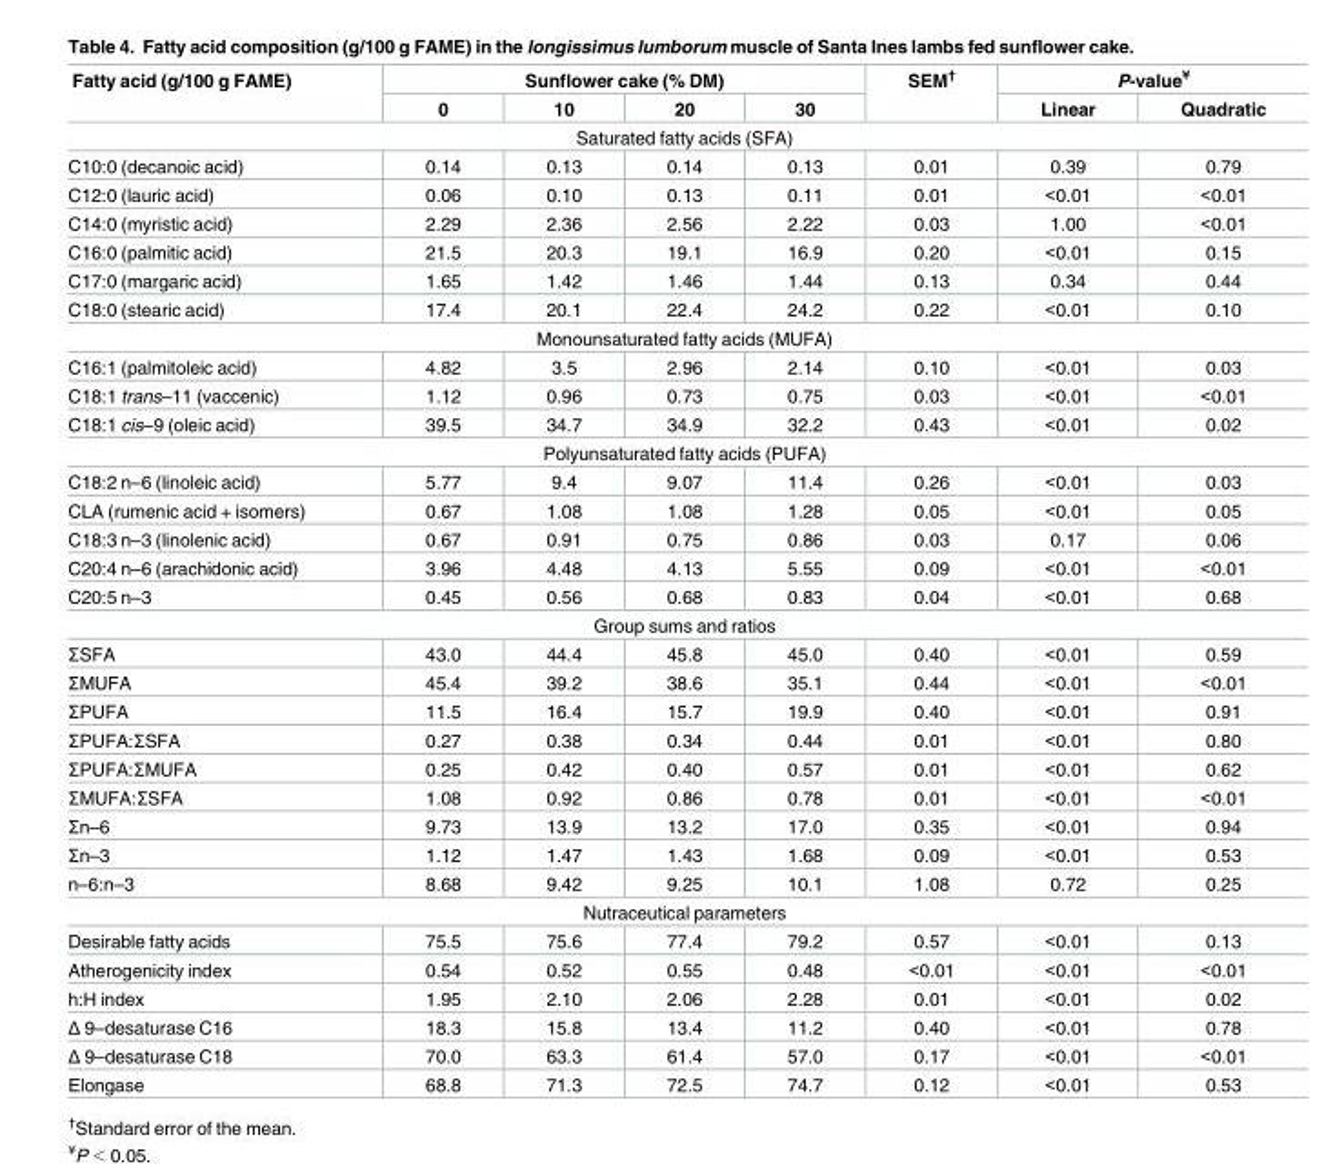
<table><thead><tr><td rowspan="2">Fatty acid (g/100 g FAME)</td><td colspan="4">Sunflower cake (% DM)</td><td rowspan="2">SEM<sup>†</sup></td><td colspan="2">P-value<sup>¥</sup></td></tr><tr><td>0</td><td>10</td><td>20</td><td>30</td><td>Linear</td><td>Quadratic</td></tr></thead><tbody><tr><td colspan="8">Saturated fatty acids (SFA)</td></tr><tr><td>C10:0 (decanoic acid)</td><td>0.14</td><td>0.13</td><td>0.14</td><td>0.13</td><td>0.01</td><td>0.39</td><td>0.79</td></tr><tr><td>C12:0 (lauric acid)</td><td>0.06</td><td>0.10</td><td>0.13</td><td>0.11</td><td>0.01</td><td>&lt;0.01</td><td>&lt;0.01</td></tr><tr><td>C14:0 (myristic acid)</td><td>2.29</td><td>2.36</td><td>2.56</td><td>2.22</td><td>0.03</td><td>1.00</td><td>&lt;0.01</td></tr><tr><td>C16:0 (palmitic acid)</td><td>21.5</td><td>20.3</td><td>19.1</td><td>16.9</td><td>0.20</td><td>&lt;0.01</td><td>0.15</td></tr><tr><td>C17:0 (margaric acid)</td><td>1.65</td><td>1.42</td><td>1.46</td><td>1.44</td><td>0.13</td><td>0.34</td><td>0.44</td></tr><tr><td>C18:0 (stearic acid)</td><td>17.4</td><td>20.1</td><td>22.4</td><td>24.2</td><td>0.22</td><td>&lt;0.01</td><td>0.10</td></tr><tr><td colspan="8">Monounsaturated fatty acids (MUFA)</td></tr><tr><td>C16:1 (palmitoleic acid)</td><td>4.82</td><td>3.5</td><td>2.96</td><td>2.14</td><td>0.10</td><td>&lt;0.01</td><td>0.03</td></tr><tr><td>C18:1 trans–11 (vaccenic)</td><td>1.12</td><td>0.96</td><td>0.73</td><td>0.75</td><td>0.03</td><td>&lt;0.01</td><td>&lt;0.01</td></tr><tr><td>C18:1 cis–9 (oleic acid)</td><td>39.5</td><td>34.7</td><td>34.9</td><td>32.2</td><td>0.43</td><td>&lt;0.01</td><td>0.02</td></tr><tr><td colspan="8">Polyunsaturated fatty acids (PUFA)</td></tr><tr><td>C18:2 n–6 (linoleic acid)</td><td>5.77</td><td>9.4</td><td>9.07</td><td>11.4</td><td>0.26</td><td>&lt;0.01</td><td>0.03</td></tr><tr><td>CLA (rumenic acid + isomers)</td><td>0.67</td><td>1.08</td><td>1.08</td><td>1.28</td><td>0.05</td><td>&lt;0.01</td><td>0.05</td></tr><tr><td>C18:3 n–3 (linolenic acid)</td><td>0.67</td><td>0.91</td><td>0.75</td><td>0.86</td><td>0.03</td><td>0.17</td><td>0.06</td></tr><tr><td>C20:4 n–6 (arachidonic acid)</td><td>3.96</td><td>4.48</td><td>4.13</td><td>5.55</td><td>0.09</td><td>&lt;0.01</td><td>&lt;0.01</td></tr><tr><td>C20:5 n–3</td><td>0.45</td><td>0.56</td><td>0.68</td><td>0.83</td><td>0.04</td><td>&lt;0.01</td><td>0.68</td></tr><tr><td colspan="8">Group sums and ratios</td></tr><tr><td>ΣSFA</td><td>43.0</td><td>44.4</td><td>45.8</td><td>45.0</td><td>0.40</td><td>&lt;0.01</td><td>0.59</td></tr><tr><td>ΣMUFA</td><td>45.4</td><td>39.2</td><td>38.6</td><td>35.1</td><td>0.44</td><td>&lt;0.01</td><td>&lt;0.01</td></tr><tr><td>ΣPUFA</td><td>11.5</td><td>16.4</td><td>15.7</td><td>19.9</td><td>0.40</td><td>&lt;0.01</td><td>0.91</td></tr><tr><td>ΣPUFA:ΣSFA</td><td>0.27</td><td>0.38</td><td>0.34</td><td>0.44</td><td>0.01</td><td>&lt;0.01</td><td>0.80</td></tr><tr><td>ΣPUFA:ΣMUFA</td><td>0.25</td><td>0.42</td><td>0.40</td><td>0.57</td><td>0.01</td><td>&lt;0.01</td><td>0.62</td></tr><tr><td>ΣMUFA:ΣSFA</td><td>1.08</td><td>0.92</td><td>0.86</td><td>0.78</td><td>0.01</td><td>&lt;0.01</td><td>&lt;0.01</td></tr><tr><td>Σn–6</td><td>9.73</td><td>13.9</td><td>13.2</td><td>17.0</td><td>0.35</td><td>&lt;0.01</td><td>0.94</td></tr><tr><td>Σn–3</td><td>1.12</td><td>1.47</td><td>1.43</td><td>1.68</td><td>0.09</td><td>&lt;0.01</td><td>0.53</td></tr><tr><td>n–6:n–3</td><td>8.68</td><td>9.42</td><td>9.25</td><td>10.1</td><td>1.08</td><td>0.72</td><td>0.25</td></tr><tr><td colspan="8">Nutraceutical parameters</td></tr><tr><td>Desirable fatty acids</td><td>75.5</td><td>75.6</td><td>77.4</td><td>79.2</td><td>0.57</td><td>&lt;0.01</td><td>0.13</td></tr><tr><td>Atherogenicity index</td><td>0.54</td><td>0.52</td><td>0.55</td><td>0.48</td><td>&lt;0.01</td><td>&lt;0.01</td><td>&lt;0.01</td></tr><tr><td>h:H index</td><td>1.95</td><td>2.10</td><td>2.06</td><td>2.28</td><td>0.01</td><td>&lt;0.01</td><td>0.02</td></tr><tr><td>Δ 9–desaturase C16</td><td>18.3</td><td>15.8</td><td>13.4</td><td>11.2</td><td>0.40</td><td>&lt;0.01</td><td>0.78</td></tr><tr><td>Δ 9–desaturase C18</td><td>70.0</td><td>63.3</td><td>61.4</td><td>57.0</td><td>0.17</td><td>&lt;0.01</td><td>&lt;0.01</td></tr><tr><td>Elongase</td><td>68.8</td><td>71.3</td><td>72.5</td><td>74.7</td><td>0.12</td><td>&lt;0.01</td><td>0.53</td></tr></tbody></table>